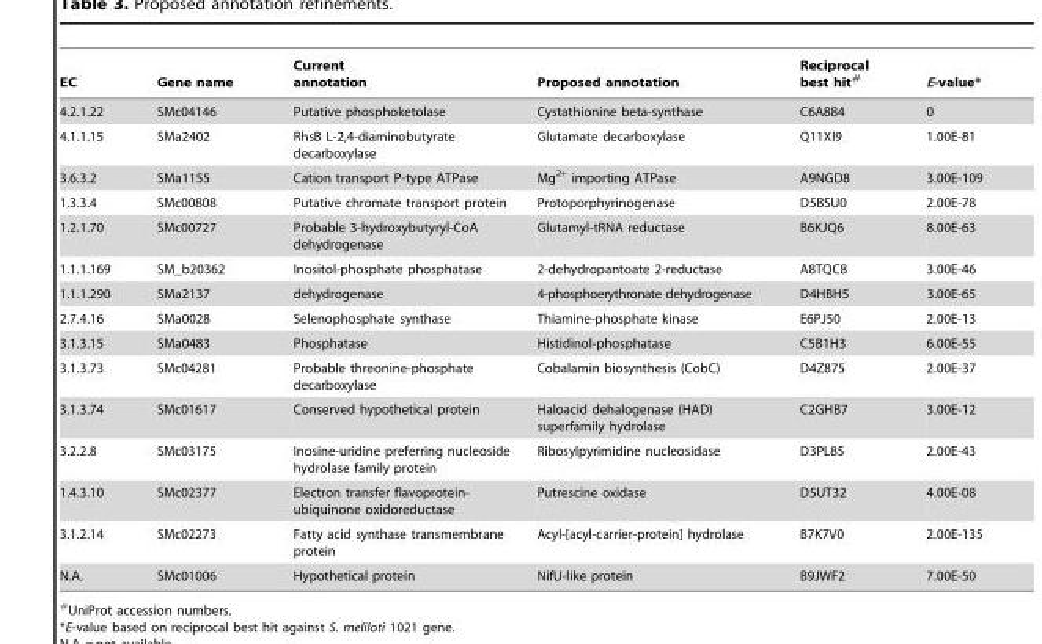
<table><thead><tr><td>EC</td><td>Gene name</td><td>Current annotation</td><td>Proposed annotation</td><td>Reciprocal best hit#</td><td>E-value*</td></tr></thead><tbody><tr><td>4.2.1.22</td><td>SMc04146</td><td>Putative phosphoketolase</td><td>Cystathionine beta-synthase</td><td>C6A884</td><td>0</td></tr><tr><td>4.1.1.15</td><td>SMa2402</td><td>RhsB L-2,4-diaminobutyrate decarboxylase</td><td>Glutamate decarboxylase</td><td>Q11XI9</td><td>1.00E-81</td></tr><tr><td>3.6.3.2</td><td>SMa1155</td><td>Cation transport P-type ATPase</td><td>Mg<sup>2+</sup> importing ATPase</td><td>A9NGD8</td><td>3.00E-109</td></tr><tr><td>1.3.3.4</td><td>SMc00808</td><td>Putative chromate transport protein</td><td>Protoporphyrinogenase</td><td>D5BSU0</td><td>2.00E-78</td></tr><tr><td>1.2.1.70</td><td>SMc00727</td><td>Probable 3-hydroxybutyryl-CoA dehydrogenase</td><td>Glutamyl-tRNA reductase</td><td>B6KJQ6</td><td>8.00E-63</td></tr><tr><td>1.1.1.169</td><td>SM_b20362</td><td>Inositol-phosphate phosphatase</td><td>2-dehydropantoate 2-reductase</td><td>A8TQC8</td><td>3.00E-46</td></tr><tr><td>1.1.1.290</td><td>SMa2137</td><td>dehydrogenase</td><td>4-phosphoerythronate dehydrogenase</td><td>D4HBH5</td><td>3.00E-65</td></tr><tr><td>2.7.4.16</td><td>SMa0028</td><td>Selenophosphate synthase</td><td>Thiamine-phosphate kinase</td><td>E6PJ50</td><td>2.00E-13</td></tr><tr><td>3.1.3.15</td><td>SMa0483</td><td>Phosphatase</td><td>Histidinol-phosphatase</td><td>C5B1H3</td><td>6.00E-55</td></tr><tr><td>3.1.3.73</td><td>SMc04281</td><td>Probable threonine-phosphate decarboxylase</td><td>Cobalamin biosynthesis (CobC)</td><td>D4Z875</td><td>2.00E-37</td></tr><tr><td>3.1.3.74</td><td>SMc01617</td><td>Conserved hypothetical protein</td><td>Haloacid dehalogenase (HAD) superfamily hydrolase</td><td>C2GHB7</td><td>3.00E-12</td></tr><tr><td>3.2.2.8</td><td>SMc03175</td><td>Inosine-uridine preferring nucleoside hydrolase family protein</td><td>Ribosylpyrimidine nucleosidase</td><td>D3PL85</td><td>2.00E-43</td></tr><tr><td>1.4.3.10</td><td>SMc02377</td><td>Electron transfer flavoprotein- ubiquinone oxidoreductase</td><td>Putrescine oxidase</td><td>D5UT32</td><td>4.00E-08</td></tr><tr><td>3.1.2.14</td><td>SMc02273</td><td>Fatty acid synthase transmembrane protein</td><td>Acyl-[acyl-carrier-protein] hydrolase</td><td>B7K7V0</td><td>2.00E-135</td></tr><tr><td>N.A.</td><td>SMc01006</td><td>Hypothetical protein</td><td>NifU-like protein</td><td>B9JWF2</td><td>7.00E-50</td></tr></tbody></table>